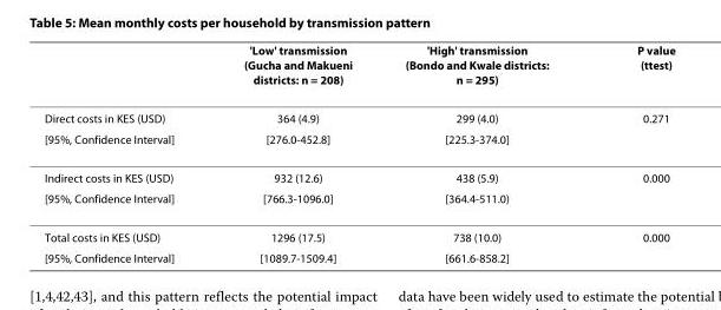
<table><thead><tr><td></td><td>&#x27;Low&#x27; transmission (Gucha and Makueni districts: n = 208)</td><td>&#x27;High&#x27; transmission (Bondo and Kwale districts: n = 295)</td><td>P value (ttest)</td></tr></thead><tbody><tr><td>Direct costs in KES (USD)</td><td>364 (4.9)</td><td>299 (4.0)</td><td>0.271</td></tr><tr><td>[95%, Confidence Interval]</td><td>[276.0-452.8]</td><td>[225.3-374.0]</td><td></td></tr><tr><td>Indirect costs in KES (USD)</td><td>932 (12.6)</td><td>438 (5.9)</td><td>0.000</td></tr><tr><td>[95%, Confidence Interval]</td><td>[766.3-1096.0]</td><td>[364.4-511.0)</td><td></td></tr><tr><td>Total costs in KES (USD)</td><td>1296 (17.5)</td><td>738 (10.0)</td><td>0.000</td></tr><tr><td>[95%, Confidence Interval]</td><td>[1089.7-1509.4]</td><td>[661.6-858.2]</td><td></td></tr></tbody></table>